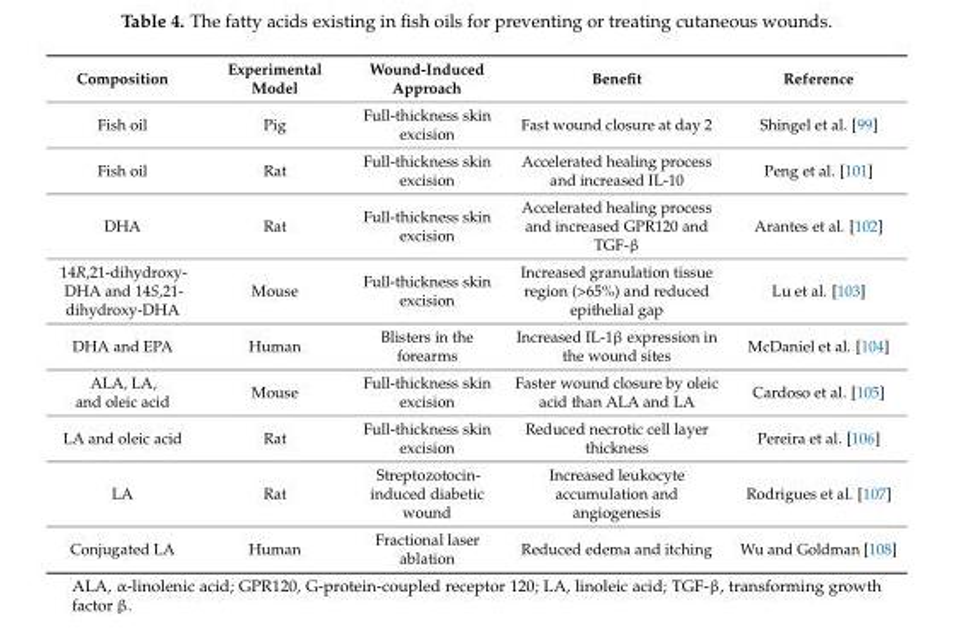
<table><thead><tr><td>Composition</td><td>Experimental Model</td><td>Wound-Induced Approach</td><td>Benefit</td><td>Reference</td></tr></thead><tbody><tr><td>Fish oil</td><td>Pig</td><td>Full-thickness skin excision</td><td>Fast wound closure at day 2</td><td>Shingel et al. [99]</td></tr><tr><td>Fish oil</td><td>Rat</td><td>Full-thickness skin excision</td><td>Accelerated healing process and increased IL-10</td><td>Peng et al. [101]</td></tr><tr><td>DHA</td><td>Rat</td><td>Full-thickness skin excision</td><td>Accelerated healing process and increased GPR120 and TGF-β</td><td>Arantes et al. [102]</td></tr><tr><td>14R,21-dihydroxy- DHA and 14S,21- dihydroxy-DHA</td><td>Mouse</td><td>Full-thickness skin excision</td><td>Increased granulation tissue region (&gt;65%) and reduced epithelial gap</td><td>Lu et al. [103]</td></tr><tr><td>DHA and EPA</td><td>Human</td><td>Blisters in the forearms</td><td>Increased IL-1β expression in the wound sites</td><td>McDaniel et al. [104]</td></tr><tr><td>ALA, LA, and oleic acid</td><td>Mouse</td><td>Full-thickness skin excision</td><td>Faster wound closure by oleic acid than ALA and LA</td><td>Cardoso et al. [105]</td></tr><tr><td>LA and oleic acid</td><td>Rat</td><td>Full-thickness skin excision</td><td>Reduced necrotic cell layer thickness</td><td>Pereira et al. [106]</td></tr><tr><td>LA</td><td>Rat</td><td>Streptozotocin- induced diabetic wound</td><td>Increased leukocyte accumulation and angiogenesis</td><td>Rodrigues et al. [107]</td></tr><tr><td>Conjugated LA</td><td>Human</td><td>Fractional laser ablation</td><td>Reduced edema and itching</td><td>Wu and Goldman [108]</td></tr></tbody></table>